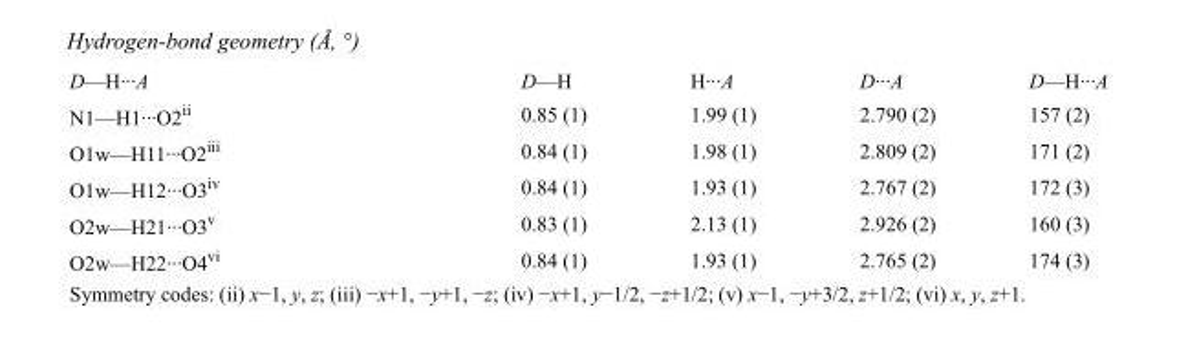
<table><tbody><tr><td>D—H···A</td><td>D—H</td><td>H···A</td><td>D···A</td><td>D—H···A</td></tr><tr><td>N1—H1···O2<sup>ii</sup></td><td>0.85 (1)</td><td>1.99 (1)</td><td>2.790 (2)</td><td>157 (2)</td></tr><tr><td>O1w—H11···O2<sup>iii</sup></td><td>0.84 (1)</td><td>1.98 (1)</td><td>2.809 (2)</td><td>171 (2)</td></tr><tr><td>O1w—H12···O3<sup>iv</sup></td><td>0.84 (1)</td><td>1.93 (1)</td><td>2.767 (2)</td><td>172 (3)</td></tr><tr><td>O2w—H21···O3<sup>v</sup></td><td>0.83 (1)</td><td>2.13 (1)</td><td>2.926 (2)</td><td>160 (3)</td></tr><tr><td>O2w—H22···O4<sup>vi</sup></td><td>0.84 (1)</td><td>1.93 (1)</td><td>2.765 (2)</td><td>174 (3)</td></tr></tbody></table>